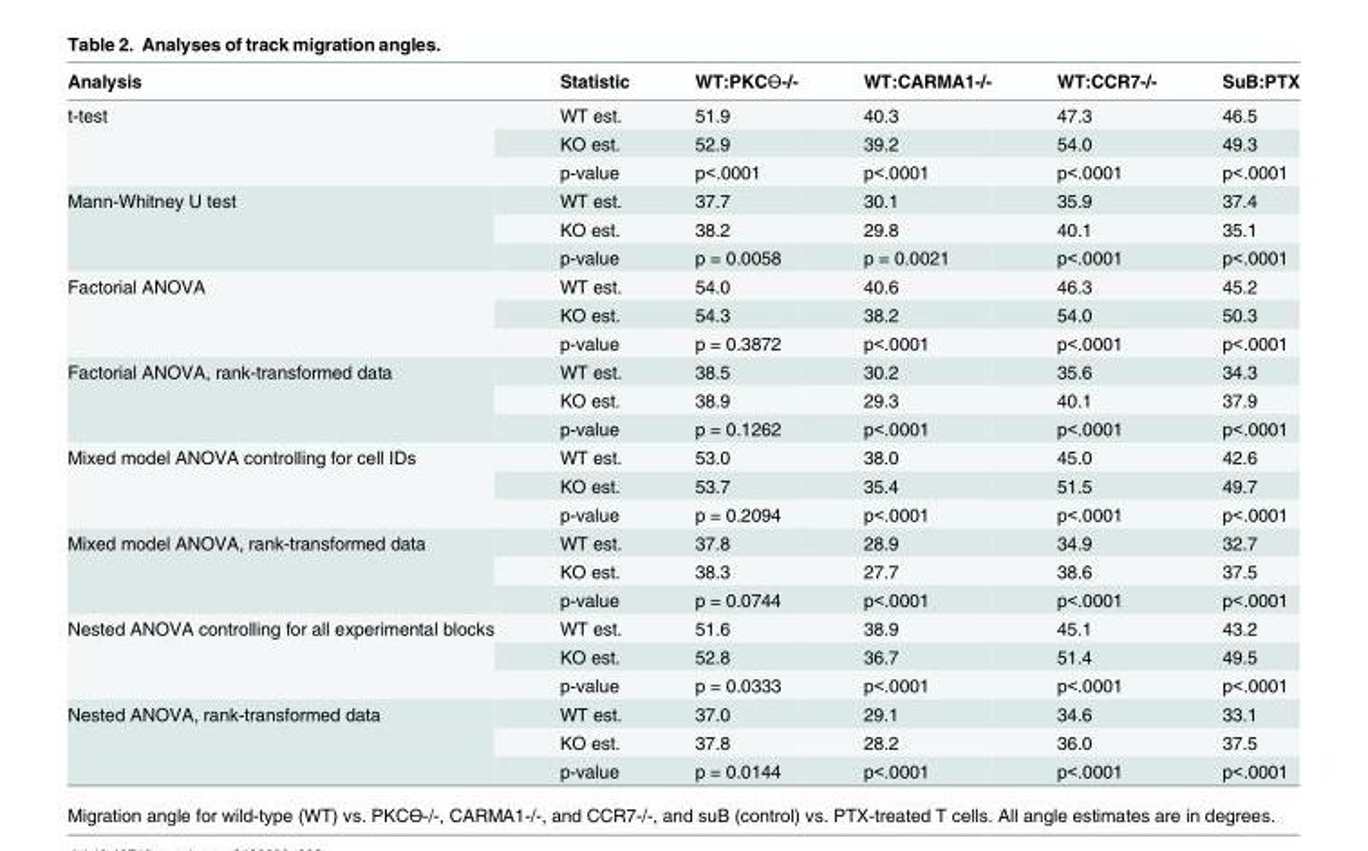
<table><thead><tr><td>Analysis</td><td>Statistic</td><td>WT:PKCƟ-/-</td><td>WT:CARMA1-/-</td><td>WT:CCR7-/-</td><td>SuB:PTX</td></tr></thead><tbody><tr><td rowspan="3">t-test</td><td>WT est.</td><td>51.9</td><td>40.3</td><td>47.3</td><td>46.5</td></tr><tr><td>KO est.</td><td>52.9</td><td>39.2</td><td>54.0</td><td>49.3</td></tr><tr><td>p-value</td><td>p&lt;.0001</td><td>p&lt;.0001</td><td>p&lt;.0001</td><td>p&lt;.0001</td></tr><tr><td rowspan="3">Mann-Whitney U test</td><td>WT est.</td><td>37.7</td><td>30.1</td><td>35.9</td><td>37.4</td></tr><tr><td>KO est.</td><td>38.2</td><td>29.8</td><td>40.1</td><td>35.1</td></tr><tr><td>p-value</td><td>p = 0.0058</td><td>p = 0.0021</td><td>p&lt;.0001</td><td>p&lt;.0001</td></tr><tr><td rowspan="3">Factorial ANOVA</td><td>WT est.</td><td>54.0</td><td>40.6</td><td>46.3</td><td>45.2</td></tr><tr><td>KO est.</td><td>54.3</td><td>38.2</td><td>54.0</td><td>50.3</td></tr><tr><td>p-value</td><td>p = 0.3872</td><td>p&lt;.0001</td><td>p&lt;.0001</td><td>p&lt;.0001</td></tr><tr><td rowspan="3">Factorial ANOVA, rank-transformed data</td><td>WT est.</td><td>38.5</td><td>30.2</td><td>35.6</td><td>34.3</td></tr><tr><td>KO est.</td><td>38.9</td><td>29.3</td><td>40.1</td><td>37.9</td></tr><tr><td>p-value</td><td>p = 0.1262</td><td>p&lt;.0001</td><td>p&lt;.0001</td><td>p&lt;.0001</td></tr><tr><td rowspan="3">Mixed model ANOVA controlling for cell IDs</td><td>WT est.</td><td>53.0</td><td>38.0</td><td>45.0</td><td>42.6</td></tr><tr><td>KO est.</td><td>53.7</td><td>35.4</td><td>51.5</td><td>49.7</td></tr><tr><td>p-value</td><td>p = 0.2094</td><td>p&lt;.0001</td><td>p&lt;.0001</td><td>p&lt;.0001</td></tr><tr><td rowspan="3">Mixed model ANOVA, rank-transformed data</td><td>WT est.</td><td>37.8</td><td>28.9</td><td>34.9</td><td>32.7</td></tr><tr><td>KO est.</td><td>38.3</td><td>27.7</td><td>38.6</td><td>37.5</td></tr><tr><td>p-value</td><td>p = 0.0744</td><td>p&lt;.0001</td><td>p&lt;.0001</td><td>p&lt;.0001</td></tr><tr><td rowspan="3">Nested ANOVA controlling for all experimental blocks</td><td>WT est.</td><td>51.6</td><td>38.9</td><td>45.1</td><td>43.2</td></tr><tr><td>KO est.</td><td>52.8</td><td>36.7</td><td>51.4</td><td>49.5</td></tr><tr><td>p-value</td><td>p = 0.0333</td><td>p&lt;.0001</td><td>p&lt;.0001</td><td>p&lt;.0001</td></tr><tr><td rowspan="3">Nested ANOVA, rank-transformed data</td><td>WT est.</td><td>37.0</td><td>29.1</td><td>34.6</td><td>33.1</td></tr><tr><td>KO est.</td><td>37.8</td><td>28.2</td><td>36.0</td><td>37.5</td></tr><tr><td>p-value</td><td>p = 0.0144</td><td>p&lt;.0001</td><td>p&lt;.0001</td><td>p&lt;.0001</td></tr></tbody></table>